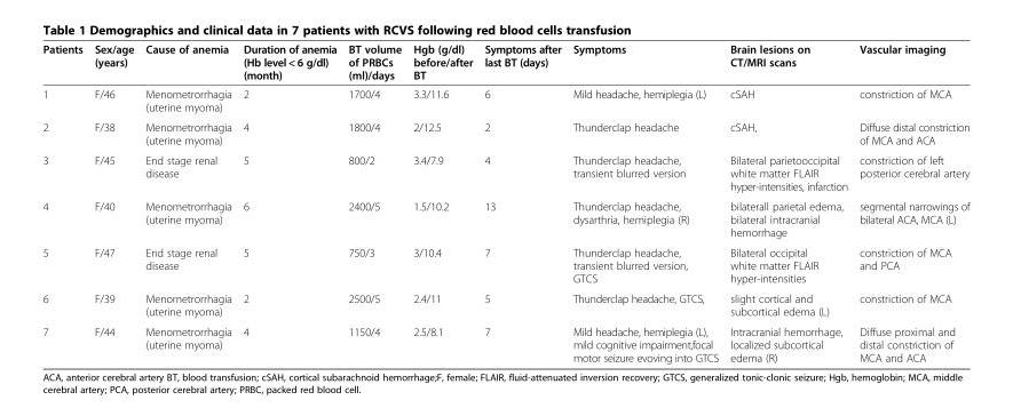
<table><thead><tr><td>Patients</td><td>Sex/age (years)</td><td>Cause of anemia</td><td>Duration of anemia (Hb level &lt; 6 g/dl) (month)</td><td>BT volume of PRBCs (ml)/days</td><td>Hgb (g/dl) before/after BT</td><td>Symptoms after last BT (days)</td><td>Symptoms</td><td>Brain lesions on CT/MRI scans</td><td>Vascular imaging</td></tr></thead><tbody><tr><td>1</td><td>F/46</td><td>Menometrorrhagia (uterine myoma)</td><td>2</td><td>1700/4</td><td>3.3/11.6</td><td>6</td><td>Mild headache, hemiplegia (L)</td><td>cSAH</td><td>constriction of MCA</td></tr><tr><td>2</td><td>F/38</td><td>Menometrorrhagia (uterine myoma)</td><td>4</td><td>1800/4</td><td>2/12.5</td><td>2</td><td>Thunderclap headache</td><td>cSAH,</td><td>Diffuse distal constriction of MCA and ACA</td></tr><tr><td>3</td><td>F/45</td><td>End stage renal disease</td><td>5</td><td>800/2</td><td>3.4/7.9</td><td>4</td><td>Thunderclap headache, transient blurred version</td><td>Bilateral parietooccipital white matter FLAIR hyper-intensities, infarction</td><td>constriction of left posterior cerebral artery</td></tr><tr><td>4</td><td>F/40</td><td>Menometrorrhagia (uterine myoma)</td><td>6</td><td>2400/5</td><td>1.5/10.2</td><td>13</td><td>Thunderclap headache, dysarthria, hemiplegia (R)</td><td>bilaterall parietal edema, bilateral intracranial hemorrhage</td><td>segmental narrowings of bilateral ACA, MCA (L)</td></tr><tr><td>5</td><td>F/47</td><td>End stage renal disease</td><td>5</td><td>750/3</td><td>3/10.4</td><td>7</td><td>Thunderclap headache, transient blurred version, GTCS</td><td>Bilateral occipital white matter FLAIR hyper-intensities</td><td>constriction of MCA and PCA</td></tr><tr><td>6</td><td>F/39</td><td>Menometrorrhagia (uterine myoma)</td><td>2</td><td>2500/5</td><td>2.4/11</td><td>5</td><td>Thunderclap headache, GTCS,</td><td>slight cortical and subcortical edema (L)</td><td>constriction of MCA</td></tr><tr><td>7</td><td>F/44</td><td>Menometrorrhagia (uterine myoma)</td><td>4</td><td>1150/4</td><td>2.5/8.1</td><td>7</td><td>Mild headache, hemiplegia (L), mild cognitive impairment,focal motor seizure evoving into GTCS</td><td>Intracranial hemorrhage, localized subcortical edema (R)</td><td>Diffuse proximal and distal constriction of MCA and ACA</td></tr></tbody></table>